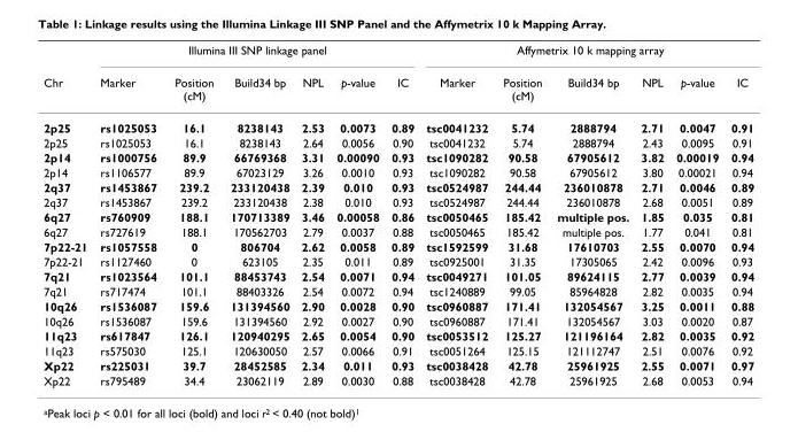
<table><thead><tr><td rowspan="2">Chr</td><td colspan="6">Illumina III SNP linkage panel</td><td colspan="6">Affymetrix 10 k mapping array</td></tr><tr><td>Marker</td><td>Position (cM)</td><td>Build34 bp</td><td>NPL</td><td>p-value</td><td>IC</td><td>Marker</td><td>Position (cM)</td><td>Build34 bp</td><td>NPL</td><td>p-value</td><td>IC</td></tr></thead><tbody><tr><td>2p25</td><td>rs1025053</td><td>16.1</td><td>8238143</td><td>2.53</td><td>0.0073</td><td>0.89</td><td>tsc0041232</td><td>5.74</td><td>2888794</td><td>2.71</td><td>0.0047</td><td>0.91</td></tr><tr><td>2p25</td><td>rs1025053</td><td>16.1</td><td>8238143</td><td>2.64</td><td>0.0056</td><td>0.90</td><td>tsc0041232</td><td>5.74</td><td>2888794</td><td>2.43</td><td>0.0095</td><td>0.91</td></tr><tr><td>2p14</td><td>rs1000756</td><td>89.9</td><td>66769368</td><td>3.31</td><td>0.00090</td><td>0.93</td><td>tsc1090282</td><td>90.58</td><td>67905612</td><td>3.82</td><td>0.00019</td><td>0.94</td></tr><tr><td>2p14</td><td>rs1106577</td><td>89.9</td><td>67023129</td><td>3.26</td><td>0.0010</td><td>0.93</td><td>tsc1090282</td><td>90.58</td><td>67905612</td><td>3.80</td><td>0.00021</td><td>0.94</td></tr><tr><td>2q37</td><td>rs1453867</td><td>239.2</td><td>233120438</td><td>2.39</td><td>0.010</td><td>0.93</td><td>tsc0524987</td><td>244.44</td><td>236010878</td><td>2.71</td><td>0.0046</td><td>0.89</td></tr><tr><td>2q37</td><td>rs1453867</td><td>239.2</td><td>233120438</td><td>2.38</td><td>0.010</td><td>0.93</td><td>tsc0524987</td><td>244.44</td><td>236010878</td><td>2.68</td><td>0.0051</td><td>0.89</td></tr><tr><td>6q27</td><td>rs760909</td><td>188.1</td><td>170713389</td><td>3.46</td><td>0.00058</td><td>0.86</td><td>tsc0050465</td><td>185.42</td><td>multiple pos.</td><td>1.85</td><td>0.035</td><td>0.81</td></tr><tr><td>6q27</td><td>rs727619</td><td>188.1</td><td>170562703</td><td>2.79</td><td>0.0037</td><td>0.88</td><td>tsc0050465</td><td>185.42</td><td>multiple pos.</td><td>1.77</td><td>0.041</td><td>0.81</td></tr><tr><td>7p22-21</td><td>rs1057558</td><td>0</td><td>806704</td><td>2.62</td><td>0.0058</td><td>0.89</td><td>tsc1592599</td><td>31.68</td><td>17610703</td><td>2.55</td><td>0.0070</td><td>0.94</td></tr><tr><td>7p22-21</td><td>rs1127460</td><td>0</td><td>623105</td><td>2.35</td><td>0.011</td><td>0.89</td><td>tsc0925001</td><td>31.35</td><td>17305065</td><td>2.42</td><td>0.0096</td><td>0.93</td></tr><tr><td>7q21</td><td>rs1023564</td><td>101.1</td><td>88453743</td><td>2.54</td><td>0.0071</td><td>0.94</td><td>tsc0049271</td><td>101.05</td><td>89624115</td><td>2.77</td><td>0.0039</td><td>0.94</td></tr><tr><td>7q21</td><td>rs717474</td><td>101.1</td><td>88403326</td><td>2.54</td><td>0.0072</td><td>0.94</td><td>tsc1240889</td><td>99.05</td><td>85964828</td><td>2.82</td><td>0.0035</td><td>0.94</td></tr><tr><td>10q26</td><td>rs1536087</td><td>159.6</td><td>131394560</td><td>2.90</td><td>0.0028</td><td>0.90</td><td>tsc0960887</td><td>171.41</td><td>132054567</td><td>3.25</td><td>0.0011</td><td>0.88</td></tr><tr><td>10q26</td><td>rs1536087</td><td>159.6</td><td>131394560</td><td>2.92</td><td>0.0027</td><td>0.90</td><td>tsc0960887</td><td>171.41</td><td>132054567</td><td>3.03</td><td>0.0020</td><td>0.87</td></tr><tr><td>11q23</td><td>rs617847</td><td>126.1</td><td>120940295</td><td>2.65</td><td>0.0054</td><td>0.90</td><td>tsc0053512</td><td>125.27</td><td>121196164</td><td>2.82</td><td>0.0035</td><td>0.92</td></tr><tr><td>11q23</td><td>rs575030</td><td>125.1</td><td>120630050</td><td>2.57</td><td>0.0066</td><td>0.91</td><td>tsc0051264</td><td>125.15</td><td>121112747</td><td>2.51</td><td>0.0076</td><td>0.92</td></tr><tr><td>Xp22</td><td>rs225031</td><td>39.7</td><td>28452585</td><td>2.34</td><td>0.011</td><td>0.93</td><td>tsc0038428</td><td>42.78</td><td>25961925</td><td>2.55</td><td>0.0071</td><td>0.97</td></tr><tr><td>Xp22</td><td>rs795489</td><td>34.4</td><td>23062119</td><td>2.89</td><td>0.0030</td><td>0.88</td><td>tsc0038428</td><td>42.78</td><td>25961925</td><td>2.68</td><td>0.0053</td><td>0.94</td></tr></tbody></table>